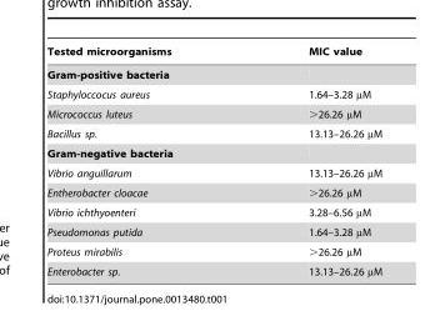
<table><thead><tr><td>Tested microorganisms</td><td>MIC value</td></tr></thead><tbody><tr><td colspan="2">Gram-positive bacteria</td></tr><tr><td>Staphyloccocus aureus</td><td>1.64–3.28 µM</td></tr><tr><td>Micrococcus luteus</td><td>&gt;26.26 µM</td></tr><tr><td>Bacillus sp.</td><td>13.13–26.26 µM</td></tr><tr><td colspan="2">Gram-negative bacteria</td></tr><tr><td>Vibrio anguillarum</td><td>13.13–26.26 µM</td></tr><tr><td>Entherobacter cloacae</td><td>&gt;26.26 µM</td></tr><tr><td>Vibrio ichthyoenteri</td><td>3.28–6.56 µM</td></tr><tr><td>Pseudomonas putida</td><td>1.64–3.28 µM</td></tr><tr><td>Proteus mirabilis</td><td>&gt;26.26 µM</td></tr><tr><td>Enterobacter sp.</td><td>13.13–26.26 µM</td></tr></tbody></table>